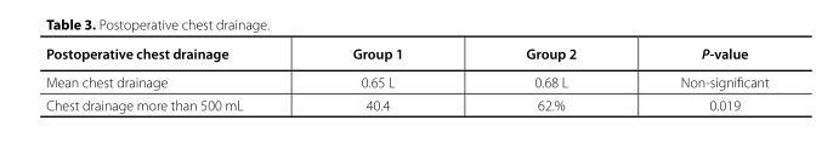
<table><thead><tr><td>Postoperative chest drainage</td><td>Group 1</td><td>Group 2</td><td>P-value</td></tr></thead><tbody><tr><td>Mean chest drainage</td><td>0.65 L</td><td>0.68 L</td><td>Non-significant</td></tr><tr><td>Chest drainage more than 500 mL</td><td>40.4</td><td>62.%</td><td>0.019</td></tr></tbody></table>